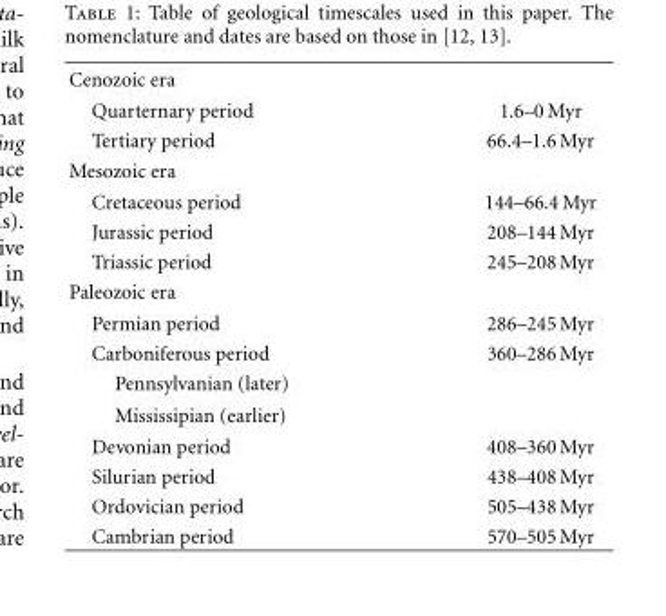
<table><tbody><tr><td colspan="2">Cenozoic era</td></tr><tr><td>Quarternary period</td><td>1.6–0 Myr</td></tr><tr><td>Tertiary period</td><td>66.4–1.6 Myr</td></tr><tr><td colspan="2">Mesozoic era</td></tr><tr><td>Cretaceous period</td><td>144–66.4 Myr</td></tr><tr><td>Jurassic period</td><td>208–144 Myr</td></tr><tr><td>Triassic period</td><td>245–208 Myr</td></tr><tr><td colspan="2">Paleozoic era</td></tr><tr><td>Permian period</td><td>286–245 Myr</td></tr><tr><td>Carboniferous period</td><td>360–286 Myr</td></tr><tr><td colspan="2">Pennsylvanian (later)</td></tr><tr><td colspan="2">Mississipian (earlier)</td></tr><tr><td>Devonian period</td><td>408–360 Myr</td></tr><tr><td>Silurian period</td><td>438–408 Myr</td></tr><tr><td>Ordovician period</td><td>505–438 Myr</td></tr><tr><td>Cambrian period</td><td>570–505 Myr</td></tr></tbody></table>